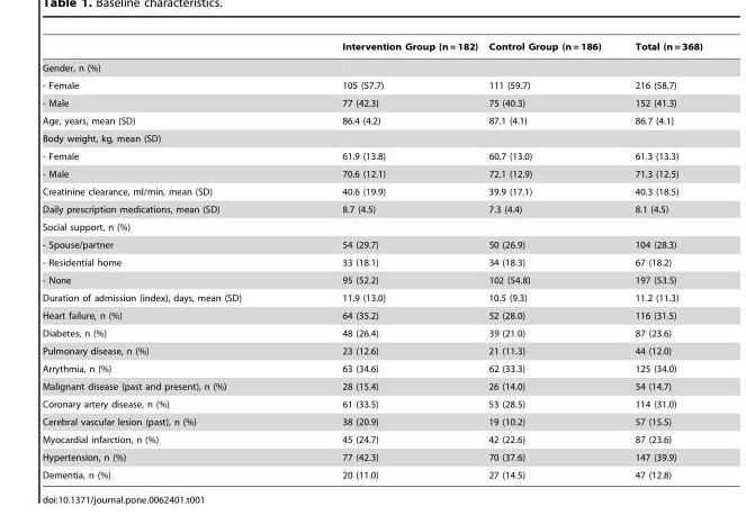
<table><thead><tr><td></td><td>Intervention Group (n = 182)</td><td>Control Group (n = 186)</td><td>Total (n = 368)</td></tr></thead><tbody><tr><td colspan="4">Gender, n (%)</td></tr><tr><td>- Female</td><td>105 (57.7)</td><td>111 (59.7)</td><td>216 (58.7)</td></tr><tr><td>- Male</td><td>77 (42.3)</td><td>75 (40.3)</td><td>152 (41.3)</td></tr><tr><td>Age, years, mean (SD)</td><td>86.4 (4.2)</td><td>87.1 (4.1)</td><td>86.7 (4.1)</td></tr><tr><td colspan="4">Body weight, kg, mean (SD)</td></tr><tr><td>- Female</td><td>61.9 (13.8)</td><td>60.7 (13.0)</td><td>61.3 (13.3)</td></tr><tr><td>- Male</td><td>70.6 (12.1)</td><td>72.1 (12.9)</td><td>71.3 (12.5)</td></tr><tr><td>Creatinine clearance, ml/min, mean (SD)</td><td>40.6 (19.9)</td><td>39.9 (17.1)</td><td>40.3 (18.5)</td></tr><tr><td>Daily prescription medications, mean (SD)</td><td>8.7 (4.5)</td><td>7.3 (4.4)</td><td>8.1 (4.5)</td></tr><tr><td colspan="4">Social support, n (%)</td></tr><tr><td>- Spouse/partner</td><td>54 (29.7)</td><td>50 (26.9)</td><td>104 (28.3)</td></tr><tr><td>- Residential home</td><td>33 (18.1)</td><td>34 (18.3)</td><td>67 (18.2)</td></tr><tr><td>- None</td><td>95 (52.2)</td><td>102 (54.8)</td><td>197 (53.5)</td></tr><tr><td>Duration of admission (index), days, mean (SD)</td><td>11.9 (13.0)</td><td>10.5 (9.3)</td><td>11.2 (11.3)</td></tr><tr><td>Heart failure, n (%)</td><td>64 (35.2)</td><td>52 (28.0)</td><td>116 (31.5)</td></tr><tr><td>Diabetes, n (%)</td><td>48 (26.4)</td><td>39 (21.0)</td><td>87 (23.6)</td></tr><tr><td>Pulmonary disease, n (%)</td><td>23 (12.6)</td><td>21 (11.3)</td><td>44 (12.0)</td></tr><tr><td>Arrythmia, n (%)</td><td>63 (34.6)</td><td>62 (33.3)</td><td>125 (34.0)</td></tr><tr><td>Malignant disease (past and present), n (%)</td><td>28 (15.4)</td><td>26 (14.0)</td><td>54 (14.7)</td></tr><tr><td>Coronary artery disease, n (%)</td><td>61 (33.5)</td><td>53 (28.5)</td><td>114 (31.0)</td></tr><tr><td>Cerebral vascular lesion (past), n (%)</td><td>38 (20.9)</td><td>19 (10.2)</td><td>57 (15.5)</td></tr><tr><td>Myocardial infarction, n (%)</td><td>45 (24.7)</td><td>42 (22.6)</td><td>87 (23.6)</td></tr><tr><td>Hypertension, n (%)</td><td>77 (42.3)</td><td>70 (37.6)</td><td>147 (39.9)</td></tr><tr><td>Dementia, n (%)</td><td>20 (11.0)</td><td>27 (14.5)</td><td>47 (12.8)</td></tr></tbody></table>